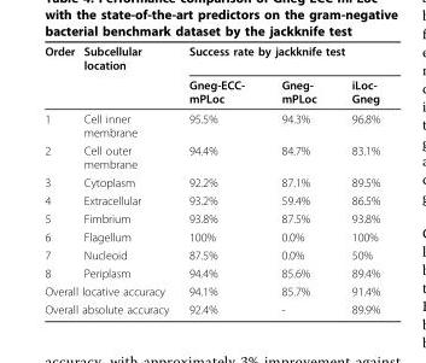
<table><thead><tr><td rowspan="2">Order</td><td rowspan="2">Subcellular location</td><td colspan="3">Success rate by jackknife test</td></tr><tr><td>Gneg-ECC- mPLoc</td><td>Gneg- mPLoc</td><td>iLoc- Gneg</td></tr></thead><tbody><tr><td>1</td><td>Cell inner membrane</td><td>95.5%</td><td>94.3%</td><td>96.8%</td></tr><tr><td>2</td><td>Cell outer membrane</td><td>94.4%</td><td>84.7%</td><td>83.1%</td></tr><tr><td>3</td><td>Cytoplasm</td><td>92.2%</td><td>87.1%</td><td>89.5%</td></tr><tr><td>4</td><td>Extracellular</td><td>93.2%</td><td>59.4%</td><td>86.5%</td></tr><tr><td>5</td><td>Fimbrium</td><td>93.8%</td><td>87.5%</td><td>93.8%</td></tr><tr><td>6</td><td>Flagellum</td><td>100%</td><td>0.0%</td><td>100%</td></tr><tr><td>7</td><td>Nucleoid</td><td>87.5%</td><td>0.0%</td><td>50%</td></tr><tr><td>8</td><td>Periplasm</td><td>94.4%</td><td>85.6%</td><td>89.4%</td></tr><tr><td colspan="2">Overall locative accuracy</td><td>94.1%</td><td>85.7%</td><td>91.4%</td></tr><tr><td colspan="2">Overall absolute accuracy</td><td>92.4%</td><td>-</td><td>89.9%</td></tr></tbody></table>